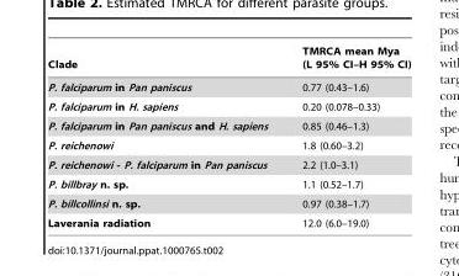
<table><thead><tr><td>Clade</td><td>TMRCA mean Mya (L 95% CI–H 95% CI)</td></tr></thead><tbody><tr><td>P. falciparum in Pan paniscus</td><td>0.77 (0.43–1.6)</td></tr><tr><td>P. falciparum in H. sapiens</td><td>0.20 (0.078–0.33)</td></tr><tr><td>P. falciparum in Pan paniscus and H. sapiens</td><td>0.85 (0.46–1.3)</td></tr><tr><td>P. reichenowi</td><td>1.8 (0.60–3.2)</td></tr><tr><td>P. reichenowi - P. falciparum in Pan paniscus</td><td>2.2 (1.0–3.1)</td></tr><tr><td>P. billbray n. sp.</td><td>1.1 (0.52–1.7)</td></tr><tr><td>P. billcollinsi n. sp.</td><td>0.97 (0.38–1.7)</td></tr><tr><td>Laverania radiation</td><td>12.0 (6.0–19.0)</td></tr></tbody></table>